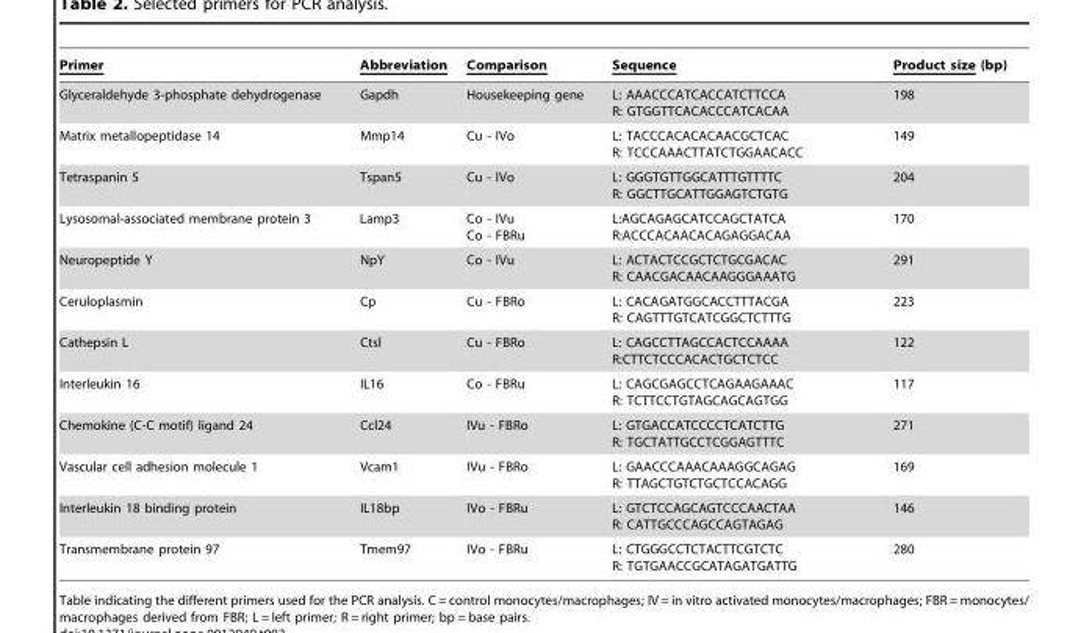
<table><thead><tr><td>Primer</td><td>Abbreviation</td><td>Comparison</td><td>Sequence</td><td>Product size (bp)</td></tr></thead><tbody><tr><td>Glyceraldehyde 3-phosphate dehydrogenase</td><td>Gapdh</td><td>Housekeeping gene</td><td>L: AAACCCATCACCATCTTCCA R: GTGGTTCACACCCATCACAA</td><td>198</td></tr><tr><td>Matrix metallopeptidase 14</td><td>Mmp14</td><td>Cu - IVo</td><td>L: TACCCACACACAACGCTCAC R: TCCCAAACTTATCTGGAACACC</td><td>149</td></tr><tr><td>Tetraspanin 5</td><td>Tspan5</td><td>Cu - IVo</td><td>L: GGGTGTTGGCATTTGTTTTC R: GGCTTGCATTGGAGTCTGTG</td><td>204</td></tr><tr><td>Lysosomal-associated membrane protein 3</td><td>Lamp3</td><td>Co - IVu Co - FBRu</td><td>L:AGCAGAGCATCCAGCTATCA R:ACCCACAACACAGAGGACAA</td><td>170</td></tr><tr><td>Neuropeptide Y</td><td>NpY</td><td>Co - IVu</td><td>L: ACTACTCCGCTCTGCGACAC R: CAACGACAACAAGGGAAATG</td><td>291</td></tr><tr><td>Ceruloplasmin</td><td>Cp</td><td>Cu - FBRo</td><td>L: CACAGATGGCACCTTTACGA R: CAGTTTGTCATCGGCTCTTTG</td><td>223</td></tr><tr><td>Cathepsin L</td><td>Ctsl</td><td>Cu - FBRo</td><td>L: CAGCCTTAGCCACTCCAAAA R:CTTCTCCCACACTGCTCTCC</td><td>122</td></tr><tr><td>Interleukin 16</td><td>IL16</td><td>Co - FBRu</td><td>L: CAGCGAGCCTCAGAAGAAAC R: TCTTCCTGTAGCAGCAGTGG</td><td>117</td></tr><tr><td>Chemokine (C-C motif) ligand 24</td><td>Ccl24</td><td>IVu - FBRo</td><td>L: GTGACCATCCCCTCATCTTG R: TGCTATTGCCTCGGAGTTTC</td><td>271</td></tr><tr><td>Vascular cell adhesion molecule 1</td><td>Vcam1</td><td>IVu - FBRo</td><td>L: GAACCCAAACAAAGGCAGAG R: TTAGCTGTCTGCTCCACAGG</td><td>169</td></tr><tr><td>Interleukin 18 binding protein</td><td>IL18bp</td><td>IVo - FBRu</td><td>L: GTCTCCAGCAGTCCCAACTAA R: CATTGCCCAGCCAGTAGAG</td><td>146</td></tr><tr><td>Transmembrane protein 97</td><td>Tmem97</td><td>IVo - FBRu</td><td>L: CTGGGCCTCTACTTCGTCTC R: TGTGAACCGCATAGATGATTG</td><td>280</td></tr></tbody></table>